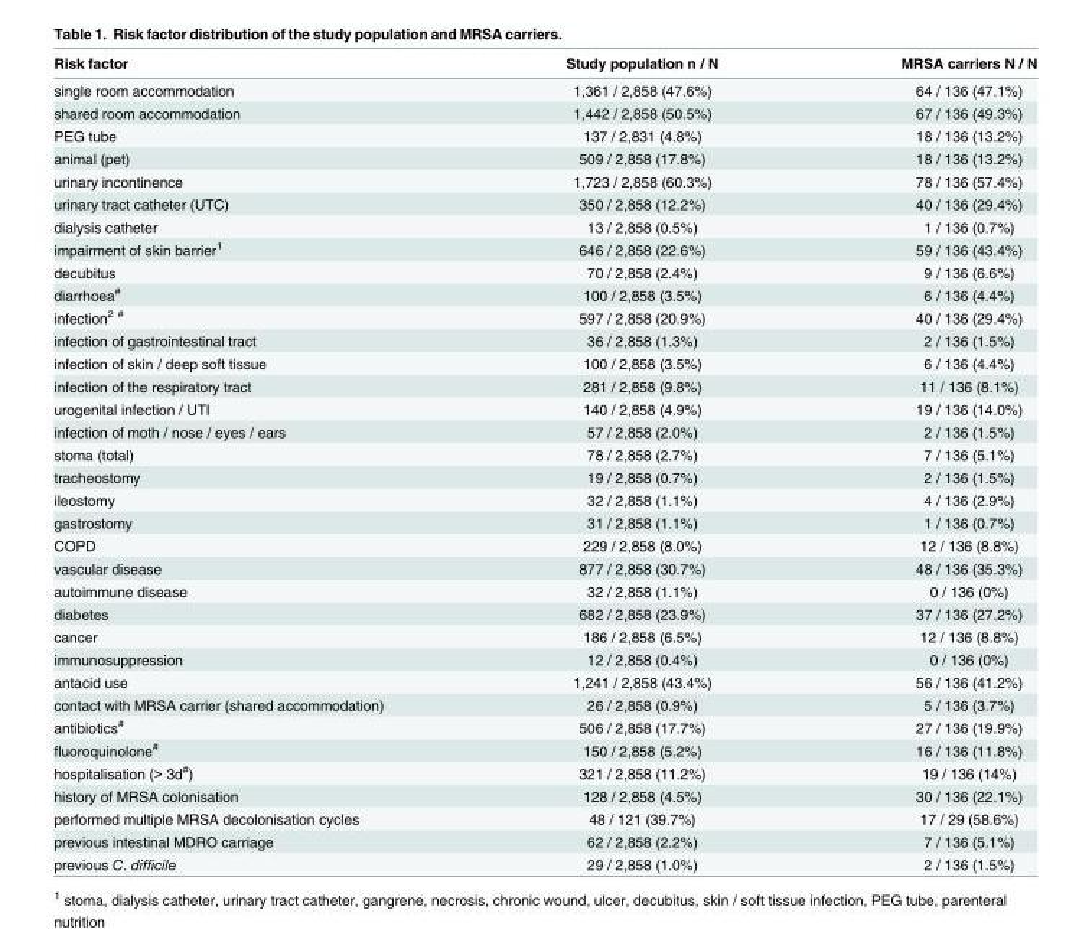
<table><thead><tr><td>Risk factor</td><td>Study population n / N</td><td>MRSA carriers N / N</td></tr></thead><tbody><tr><td>single room accommodation</td><td>1,361 / 2,858 (47.6%)</td><td>64 / 136 (47.1%)</td></tr><tr><td>shared room accommodation</td><td>1,442 / 2,858 (50.5%)</td><td>67 / 136 (49.3%)</td></tr><tr><td>PEG tube</td><td>137 / 2,831 (4.8%)</td><td>18 / 136 (13.2%)</td></tr><tr><td>animal (pet)</td><td>509 / 2,858 (17.8%)</td><td>18 / 136 (13.2%)</td></tr><tr><td>urinary incontinence</td><td>1,723 / 2,858 (60.3%)</td><td>78 / 136 (57.4%)</td></tr><tr><td>urinary tract catheter (UTC)</td><td>350 / 2,858 (12.2%)</td><td>40 / 136 (29.4%)</td></tr><tr><td>dialysis catheter</td><td>13 / 2,858 (0.5%)</td><td>1 / 136 (0.7%)</td></tr><tr><td>impairment of skin barrier<sup>1</sup></td><td>646 / 2,858 (22.6%)</td><td>59 / 136 (43.4%)</td></tr><tr><td>decubitus</td><td>70 / 2,858 (2.4%)</td><td>9 / 136 (6.6%)</td></tr><tr><td>diarrhoea<sup>#</sup></td><td>100 / 2,858 (3.5%)</td><td>6 / 136 (4.4%)</td></tr><tr><td>infection<sup>2 #</sup></td><td>597 / 2,858 (20.9%)</td><td>40 / 136 (29.4%)</td></tr><tr><td>infection of gastrointestinal tract</td><td>36 / 2,858 (1.3%)</td><td>2 / 136 (1.5%)</td></tr><tr><td>infection of skin / deep soft tissue</td><td>100 / 2,858 (3.5%)</td><td>6 / 136 (4.4%)</td></tr><tr><td>infection of the respiratory tract</td><td>281 / 2,858 (9.8%)</td><td>11 / 136 (8.1%)</td></tr><tr><td>urogenital infection / UTI</td><td>140 / 2,858 (4.9%)</td><td>19 / 136 (14.0%)</td></tr><tr><td>infection of moth / nose / eyes / ears</td><td>57 / 2,858 (2.0%)</td><td>2 / 136 (1.5%)</td></tr><tr><td>stoma (total)</td><td>78 / 2,858 (2.7%)</td><td>7 / 136 (5.1%)</td></tr><tr><td>tracheostomy</td><td>19 / 2,858 (0.7%)</td><td>2 / 136 (1.5%)</td></tr><tr><td>ileostomy</td><td>32 / 2,858 (1.1%)</td><td>4 / 136 (2.9%)</td></tr><tr><td>gastrostomy</td><td>31 / 2,858 (1.1%)</td><td>1 / 136 (0.7%)</td></tr><tr><td>COPD</td><td>229 / 2,858 (8.0%)</td><td>12 / 136 (8.8%)</td></tr><tr><td>vascular disease</td><td>877 / 2,858 (30.7%)</td><td>48 / 136 (35.3%)</td></tr><tr><td>autoimmune disease</td><td>32 / 2,858 (1.1%)</td><td>0 / 136 (0%)</td></tr><tr><td>diabetes</td><td>682 / 2,858 (23.9%)</td><td>37 / 136 (27.2%)</td></tr><tr><td>cancer</td><td>186 / 2,858 (6.5%)</td><td>12 / 136 (8.8%)</td></tr><tr><td>immunosuppression</td><td>12 / 2,858 (0.4%)</td><td>0 / 136 (0%)</td></tr><tr><td>antacid use</td><td>1,241 / 2,858 (43.4%)</td><td>56 / 136 (41.2%)</td></tr><tr><td>contact with MRSA carrier (shared accommodation)</td><td>26 / 2,858 (0.9%)</td><td>5 / 136 (3.7%)</td></tr><tr><td>antibiotics<sup>#</sup></td><td>506 / 2,858 (17.7%)</td><td>27 / 136 (19.9%)</td></tr><tr><td>fluoroquinolone<sup>#</sup></td><td>150 / 2,858 (5.2%)</td><td>16 / 136 (11.8%)</td></tr><tr><td>hospitalisation (&gt; 3d<sup>#</sup>)</td><td>321 / 2,858 (11.2%)</td><td>19 / 136 (14%)</td></tr><tr><td>history of MRSA colonisation</td><td>128 / 2,858 (4.5%)</td><td>30 / 136 (22.1%)</td></tr><tr><td>performed multiple MRSA decolonisation cycles</td><td>48 / 121 (39.7%)</td><td>17 / 29 (58.6%)</td></tr><tr><td>previous intestinal MDRO carriage</td><td>62 / 2,858 (2.2%)</td><td>7 / 136 (5.1%)</td></tr><tr><td>previous C. difficile</td><td>29 / 2,858 (1.0%)</td><td>2 / 136 (1.5%)</td></tr></tbody></table>